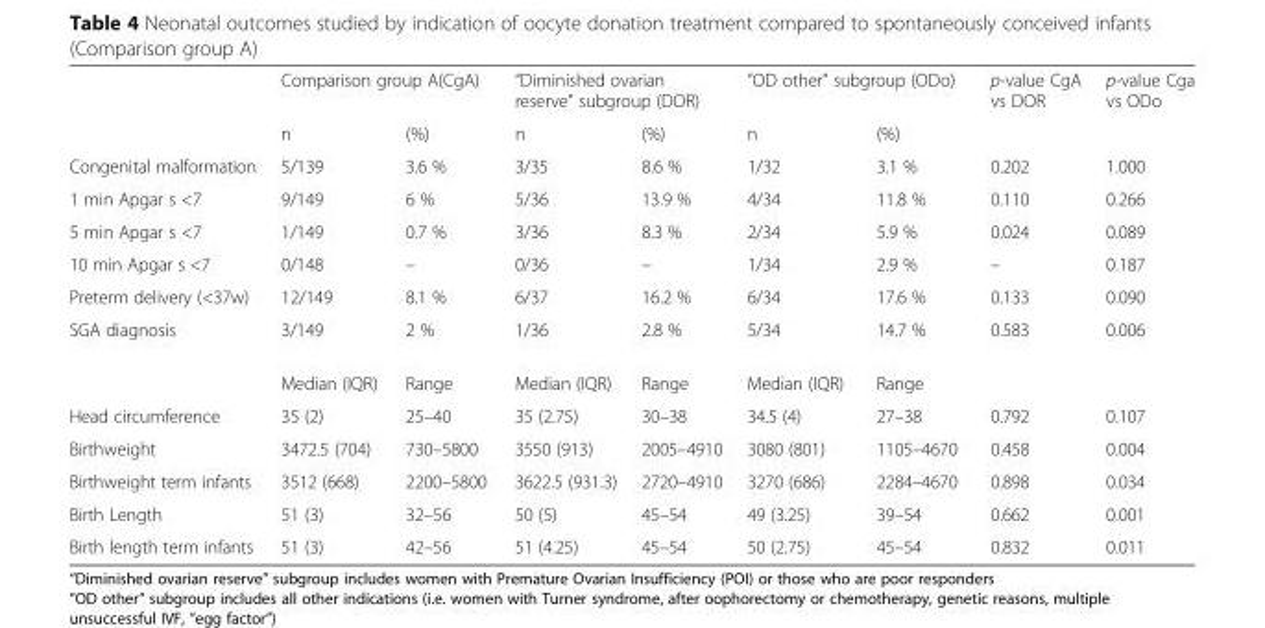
<table><thead><tr><td rowspan="2"></td><td colspan="2">Comparison group A(CgA)</td><td colspan="2">“Diminished ovarian reserve” subgroup (DOR)</td><td colspan="2">”OD other” subgroup (ODo)</td><td rowspan="2">p-value CgA vs DOR</td><td rowspan="2">p-value Cga vs ODo</td></tr><tr><td>n</td><td>(%)</td><td>n</td><td>(%)</td><td>n</td><td>(%)</td></tr></thead><tbody><tr><td>Congenital malformation</td><td>5/139</td><td>3.6 %</td><td>3/35</td><td>8.6 %</td><td>1/32</td><td>3.1 %</td><td>0.202</td><td>1.000</td></tr><tr><td>1 min Apgar s &lt;7</td><td>9/149</td><td>6 %</td><td>5/36</td><td>13.9 %</td><td>4/34</td><td>11.8 %</td><td>0.110</td><td>0.266</td></tr><tr><td>5 min Apgar s &lt;7</td><td>1/149</td><td>0.7 %</td><td>3/36</td><td>8.3 %</td><td>2/34</td><td>5.9 %</td><td>0.024</td><td>0.089</td></tr><tr><td>10 min Apgar s &lt;7</td><td>0/148</td><td>–</td><td>0/36</td><td>–</td><td>1/34</td><td>2.9 %</td><td>–</td><td>0.187</td></tr><tr><td>Preterm delivery (&lt;37w)</td><td>12/149</td><td>8.1 %</td><td>6/37</td><td>16.2 %</td><td>6/34</td><td>17.6 %</td><td>0.133</td><td>0.090</td></tr><tr><td rowspan="2">SGA diagnosis</td><td>3/149</td><td>2 %</td><td>1/36</td><td>2.8 %</td><td>5/34</td><td>14.7 %</td><td>0.583</td><td>0.006</td></tr><tr><td>Median (IQR)</td><td>Range</td><td>Median (IQR)</td><td>Range</td><td>Median (IQR)</td><td>Range</td><td></td><td></td></tr><tr><td>Head circumference</td><td>35 (2)</td><td>25–40</td><td>35 (2.75)</td><td>30–38</td><td>34.5 (4)</td><td>27–38</td><td>0.792</td><td>0.107</td></tr><tr><td>Birthweight</td><td>3472.5 (704)</td><td>730–5800</td><td>3550 (913)</td><td>2005–4910</td><td>3080 (801)</td><td>1105–4670</td><td>0.458</td><td>0.004</td></tr><tr><td>Birthweight term infants</td><td>3512 (668)</td><td>2200–5800</td><td>3622.5 (931.3)</td><td>2720–4910</td><td>3270 (686)</td><td>2284–4670</td><td>0.898</td><td>0.034</td></tr><tr><td>Birth Length</td><td>51 (3)</td><td>32–56</td><td>50 (5)</td><td>45–54</td><td>49 (3.25)</td><td>39–54</td><td>0.662</td><td>0.001</td></tr><tr><td>Birth length term infants</td><td>51 (3)</td><td>42–56</td><td>51 (4.25)</td><td>45–54</td><td>50 (2.75)</td><td>45–54</td><td>0.832</td><td>0.011</td></tr></tbody></table>